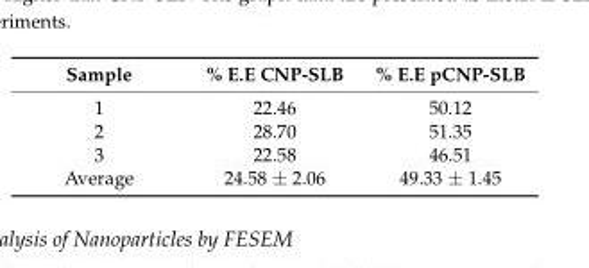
<table><thead><tr><td>Sample</td><td>% E.E CNP-SLB</td><td>% E.E pCNP-SLB</td></tr></thead><tbody><tr><td>1</td><td>22.46</td><td>50.12</td></tr><tr><td>2</td><td>28.70</td><td>51.35</td></tr><tr><td>3</td><td>22.58</td><td>46.51</td></tr><tr><td>Average</td><td>24.58 ± 2.06</td><td>49.33 ± 1.45</td></tr></tbody></table>